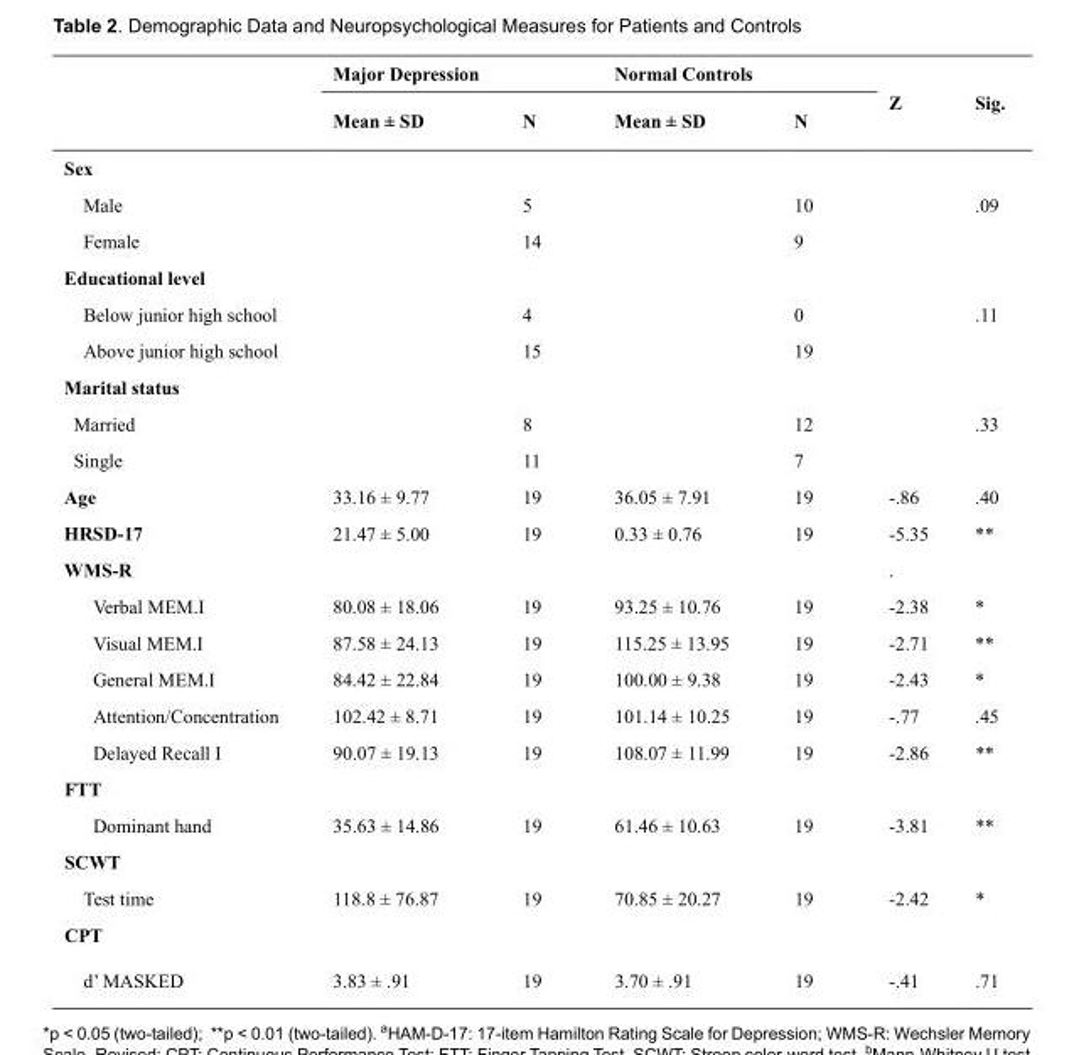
<table><thead><tr><td rowspan="2"></td><td colspan="2">Major Depression</td><td colspan="2">Normal Controls</td><td rowspan="2">Z</td><td rowspan="2">Sig.</td></tr><tr><td>Mean ± SD</td><td>N</td><td>Mean ± SD</td><td>N</td></tr></thead><tbody><tr><td colspan="7">Sex</td></tr><tr><td>Male</td><td></td><td>5</td><td></td><td>10</td><td></td><td>.09</td></tr><tr><td>Female</td><td></td><td>14</td><td></td><td>9</td><td></td><td></td></tr><tr><td colspan="7">Educational level</td></tr><tr><td>Below junior high school</td><td></td><td>4</td><td></td><td>0</td><td></td><td>.11</td></tr><tr><td>Above junior high school</td><td></td><td>15</td><td></td><td>19</td><td></td><td></td></tr><tr><td colspan="7">Marital status</td></tr><tr><td>Married</td><td></td><td>8</td><td></td><td>12</td><td></td><td>.33</td></tr><tr><td>Single</td><td></td><td>11</td><td></td><td>7</td><td></td><td></td></tr><tr><td>Age</td><td>33.16 ± 9.77</td><td>19</td><td>36.05 ± 7.91</td><td>19</td><td>-.86</td><td>.40</td></tr><tr><td>HRSD-17</td><td>21.47 ± 5.00</td><td>19</td><td>0.33 ± 0.76</td><td>19</td><td>-5.35</td><td>**</td></tr><tr><td colspan="7">WMS-R .</td></tr><tr><td>Verbal MEM.I</td><td>80.08 ± 18.06</td><td>19</td><td>93.25 ± 10.76</td><td>19</td><td>-2.38</td><td>*</td></tr><tr><td>Visual MEM.I</td><td>87.58 ± 24.13</td><td>19</td><td>115.25 ± 13.95</td><td>19</td><td>-2.71</td><td>**</td></tr><tr><td>General MEM.I</td><td>84.42 ± 22.84</td><td>19</td><td>100.00 ± 9.38</td><td>19</td><td>-2.43</td><td>*</td></tr><tr><td>Attention/Concentration</td><td>102.42 ± 8.71</td><td>19</td><td>101.14 ± 10.25</td><td>19</td><td>-.77</td><td>.45</td></tr><tr><td>Delayed Recall I</td><td>90.07 ± 19.13</td><td>19</td><td>108.07 ± 11.99</td><td>19</td><td>-2.86</td><td>**</td></tr><tr><td colspan="7">FTT</td></tr><tr><td>Dominant hand</td><td>35.63 ± 14.86</td><td>19</td><td>61.46 ± 10.63</td><td>19</td><td>-3.81</td><td>**</td></tr><tr><td colspan="7">SCWT</td></tr><tr><td>Test time</td><td>118.8 ± 76.87</td><td>19</td><td>70.85 ± 20.27</td><td>19</td><td>-2.42</td><td>*</td></tr><tr><td colspan="7">CPT</td></tr><tr><td>d’ MASKED</td><td>3.83 ± .91</td><td>19</td><td>3.70 ± .91</td><td>19</td><td>-.41</td><td>.71</td></tr></tbody></table>